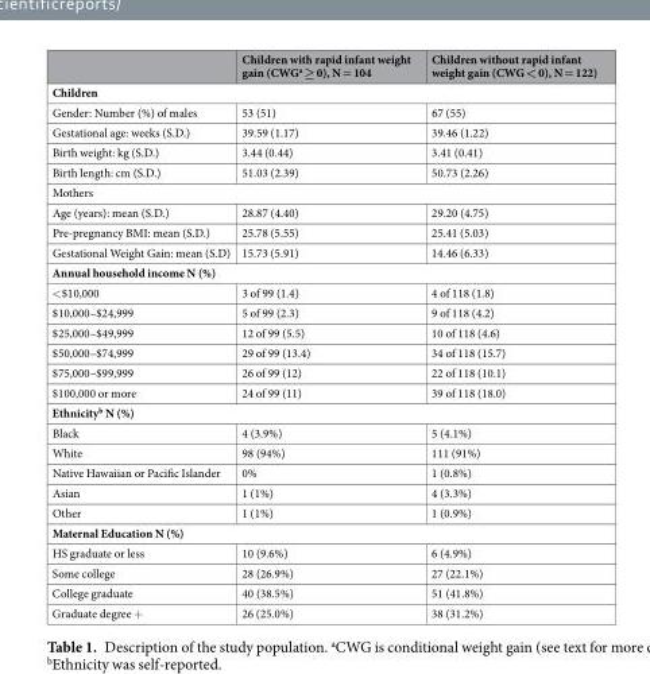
<table><thead><tr><td></td><td>Children with rapid infant weight gain (CWG<sup>a</sup> ≥ 0), N = 104</td><td>Children without rapid infant weight gain (CWG &lt; 0), N = 122)</td></tr></thead><tbody><tr><td colspan="3">Children</td></tr><tr><td>Gender: Number (%) of males</td><td>53 (51)</td><td>67 (55)</td></tr><tr><td>Gestational age: weeks (S.D.)</td><td>39.59 (1.17)</td><td>39.46 (1.22)</td></tr><tr><td>Birth weight: kg (S.D.)</td><td>3.44 (0.44)</td><td>3.41 (0.41)</td></tr><tr><td>Birth length: cm (S.D.)</td><td>51.03 (2.39)</td><td>50.73 (2.26)</td></tr><tr><td colspan="3">Mothers</td></tr><tr><td>Age (years): mean (S.D.)</td><td>28.87 (4.40)</td><td>29.20 (4.75)</td></tr><tr><td>Pre-pregnancy BMI: mean (S.D.)</td><td>25.78 (5.55)</td><td>25.41 (5.03)</td></tr><tr><td>Gestational Weight Gain: mean (S.D)</td><td>15.73 (5.91)</td><td>14.46 (6.33)</td></tr><tr><td colspan="3">Annual household income N (%)</td></tr><tr><td>&lt;$10,000</td><td>3 of 99 (1.4)</td><td>4 of 118 (1.8)</td></tr><tr><td>$10,000–$24,999</td><td>5 of 99 (2.3)</td><td>9 of 118 (4.2)</td></tr><tr><td>$25,000–$49,999</td><td>12 of 99 (5.5)</td><td>10 of 118 (4.6)</td></tr><tr><td>$50,000–$74,999</td><td>29 of 99 (13.4)</td><td>34 of 118 (15.7)</td></tr><tr><td>$75,000–$99,999</td><td>26 of 99 (12)</td><td>22 of 118 (10.1)</td></tr><tr><td>$100,000 or more</td><td>24 of 99 (11)</td><td>39 of 118 (18.0)</td></tr><tr><td colspan="3">Ethnicity<sup>b</sup> N (%)</td></tr><tr><td>Black</td><td>4 (3.9%)</td><td>5 (4.1%)</td></tr><tr><td>White</td><td>98 (94%)</td><td>111 (91%)</td></tr><tr><td>Native Hawaiian or Pacific Islander</td><td>0%</td><td>1 (0.8%)</td></tr><tr><td>Asian</td><td>1 (1%)</td><td>4 (3.3%)</td></tr><tr><td>Other</td><td>1 (1%)</td><td>1 (0.9%)</td></tr><tr><td colspan="3">Maternal Education N (%)</td></tr><tr><td>HS graduate or less</td><td>10 (9.6%)</td><td>6 (4.9%)</td></tr><tr><td>Some college</td><td>28 (26.9%)</td><td>27 (22.1%)</td></tr><tr><td>College graduate</td><td>40 (38.5%)</td><td>51 (41.8%)</td></tr><tr><td>Graduate degree +</td><td>26 (25.0%)</td><td>38 (31.2%)</td></tr></tbody></table>